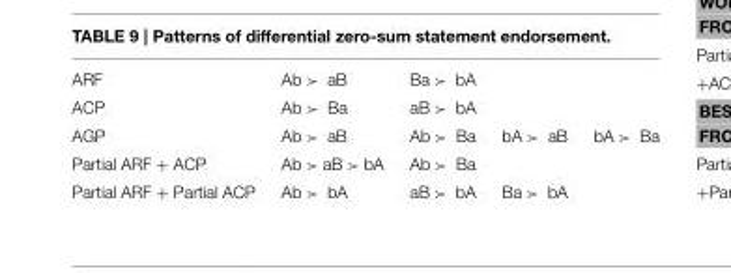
<table><tbody><tr><td>ARF</td><td>Ab ≻ aB</td><td>Ba ≻ bA</td><td></td><td></td></tr><tr><td>ACP</td><td>Ab ≻ Ba</td><td>aB ≻ bA</td><td></td><td></td></tr><tr><td>AGP</td><td>Ab ≻ aB</td><td>Ab ≻ Ba</td><td>bA ≻ aB</td><td>bA ≻ Ba</td></tr><tr><td>Partial ARF + ACP</td><td>Ab ≻ aB ≻ bA</td><td>Ab ≻ Ba</td><td></td><td></td></tr><tr><td>Partial ARF + Partial ACP</td><td>Ab ≻ bA</td><td>aB ≻ bA</td><td>Ba ≻ bA</td><td></td></tr></tbody></table>